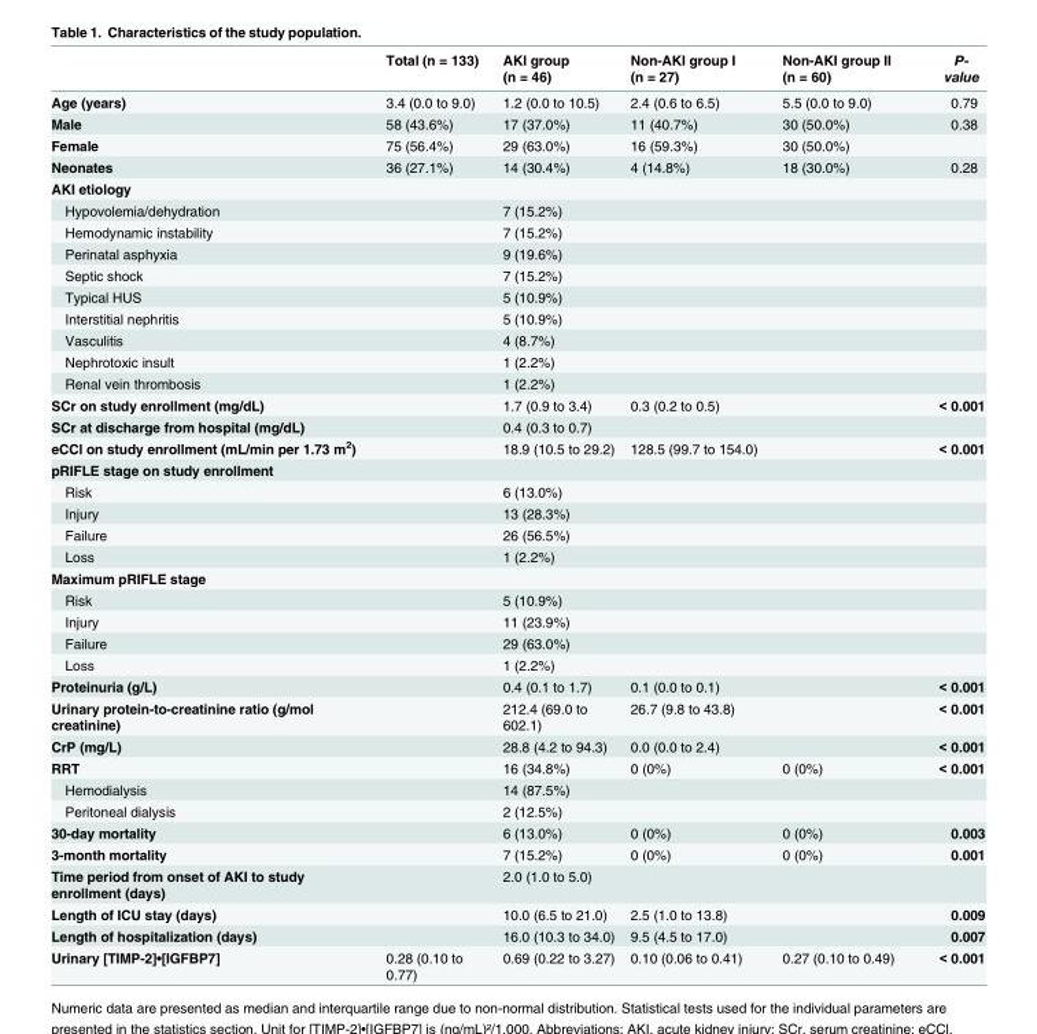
<table><thead><tr><td></td><td>Total (n = 133)</td><td>AKI group (n = 46)</td><td>Non-AKI group I (n = 27)</td><td>Non-AKI group II (n = 60)</td><td>P- value</td></tr></thead><tbody><tr><td>Age (years)</td><td>3.4 (0.0 to 9.0)</td><td>1.2 (0.0 to 10.5)</td><td>2.4 (0.6 to 6.5)</td><td>5.5 (0.0 to 9.0)</td><td>0.79</td></tr><tr><td>Male</td><td>58 (43.6%)</td><td>17 (37.0%)</td><td>11 (40.7%)</td><td>30 (50.0%)</td><td>0.38</td></tr><tr><td>Female</td><td>75 (56.4%)</td><td>29 (63.0%)</td><td>16 (59.3%)</td><td>30 (50.0%)</td><td></td></tr><tr><td>Neonates</td><td>36 (27.1%)</td><td>14 (30.4%)</td><td>4 (14.8%)</td><td>18 (30.0%)</td><td>0.28</td></tr><tr><td colspan="6">AKI etiology</td></tr><tr><td>Hypovolemia/dehydration</td><td></td><td>7 (15.2%)</td><td></td><td></td><td></td></tr><tr><td>Hemodynamic instability</td><td></td><td>7 (15.2%)</td><td></td><td></td><td></td></tr><tr><td>Perinatal asphyxia</td><td></td><td>9 (19.6%)</td><td></td><td></td><td></td></tr><tr><td>Septic shock</td><td></td><td>7 (15.2%)</td><td></td><td></td><td></td></tr><tr><td>Typical HUS</td><td></td><td>5 (10.9%)</td><td></td><td></td><td></td></tr><tr><td>Interstitial nephritis</td><td></td><td>5 (10.9%)</td><td></td><td></td><td></td></tr><tr><td>Vasculitis</td><td></td><td>4 (8.7%)</td><td></td><td></td><td></td></tr><tr><td>Nephrotoxic insult</td><td></td><td>1 (2.2%)</td><td></td><td></td><td></td></tr><tr><td>Renal vein thrombosis</td><td></td><td>1 (2.2%)</td><td></td><td></td><td></td></tr><tr><td>SCr on study enrollment (mg/dL)</td><td></td><td>1.7 (0.9 to 3.4)</td><td>0.3 (0.2 to 0.5)</td><td></td><td>&lt; 0.001</td></tr><tr><td>SCr at discharge from hospital (mg/dL)</td><td></td><td>0.4 (0.3 to 0.7)</td><td></td><td></td><td></td></tr><tr><td>eCCl on study enrollment (mL/min per 1.73 m<sup>2</sup>)</td><td></td><td>18.9 (10.5 to 29.2)</td><td>128.5 (99.7 to 154.0)</td><td></td><td>&lt; 0.001</td></tr><tr><td colspan="6">pRIFLE stage on study enrollment</td></tr><tr><td>Risk</td><td></td><td>6 (13.0%)</td><td></td><td></td><td></td></tr><tr><td>Injury</td><td></td><td>13 (28.3%)</td><td></td><td></td><td></td></tr><tr><td>Failure</td><td></td><td>26 (56.5%)</td><td></td><td></td><td></td></tr><tr><td>Loss</td><td></td><td>1 (2.2%)</td><td></td><td></td><td></td></tr><tr><td colspan="6">Maximum pRIFLE stage</td></tr><tr><td>Risk</td><td></td><td>5 (10.9%)</td><td></td><td></td><td></td></tr><tr><td>Injury</td><td></td><td>11 (23.9%)</td><td></td><td></td><td></td></tr><tr><td>Failure</td><td></td><td>29 (63.0%)</td><td></td><td></td><td></td></tr><tr><td>Loss</td><td></td><td>1 (2.2%)</td><td></td><td></td><td></td></tr><tr><td>Proteinuria (g/L)</td><td></td><td>0.4 (0.1 to 1.7)</td><td>0.1 (0.0 to 0.1)</td><td></td><td>&lt; 0.001</td></tr><tr><td>Urinary protein-to-creatinine ratio (g/mol creatinine)</td><td></td><td>212.4 (69.0 to 602.1)</td><td>26.7 (9.8 to 43.8)</td><td></td><td>&lt; 0.001</td></tr><tr><td>CrP (mg/L)</td><td></td><td>28.8 (4.2 to 94.3)</td><td>0.0 (0.0 to 2.4)</td><td></td><td>&lt; 0.001</td></tr><tr><td>RRT</td><td></td><td>16 (34.8%)</td><td>0 (0%)</td><td>0 (0%)</td><td>&lt; 0.001</td></tr><tr><td>Hemodialysis</td><td></td><td>14 (87.5%)</td><td></td><td></td><td></td></tr><tr><td>Peritoneal dialysis</td><td></td><td>2 (12.5%)</td><td></td><td></td><td></td></tr><tr><td>30-day mortality</td><td></td><td>6 (13.0%)</td><td>0 (0%)</td><td>0 (0%)</td><td>0.003</td></tr><tr><td>3-month mortality</td><td></td><td>7 (15.2%)</td><td>0 (0%)</td><td>0 (0%)</td><td>0.001</td></tr><tr><td>Time period from onset of AKI to study enrollment (days)</td><td></td><td>2.0 (1.0 to 5.0)</td><td></td><td></td><td></td></tr><tr><td>Length of ICU stay (days)</td><td></td><td>10.0 (6.5 to 21.0)</td><td>2.5 (1.0 to 13.8)</td><td></td><td>0.009</td></tr><tr><td>Length of hospitalization (days)</td><td></td><td>16.0 (10.3 to 34.0)</td><td>9.5 (4.5 to 17.0)</td><td></td><td>0.007</td></tr><tr><td>Urinary [TIMP-2]•[IGFBP7]</td><td>0.28 (0.10 to 0.77)</td><td>0.69 (0.22 to 3.27)</td><td>0.10 (0.06 to 0.41)</td><td>0.27 (0.10 to 0.49)</td><td>&lt; 0.001</td></tr></tbody></table>